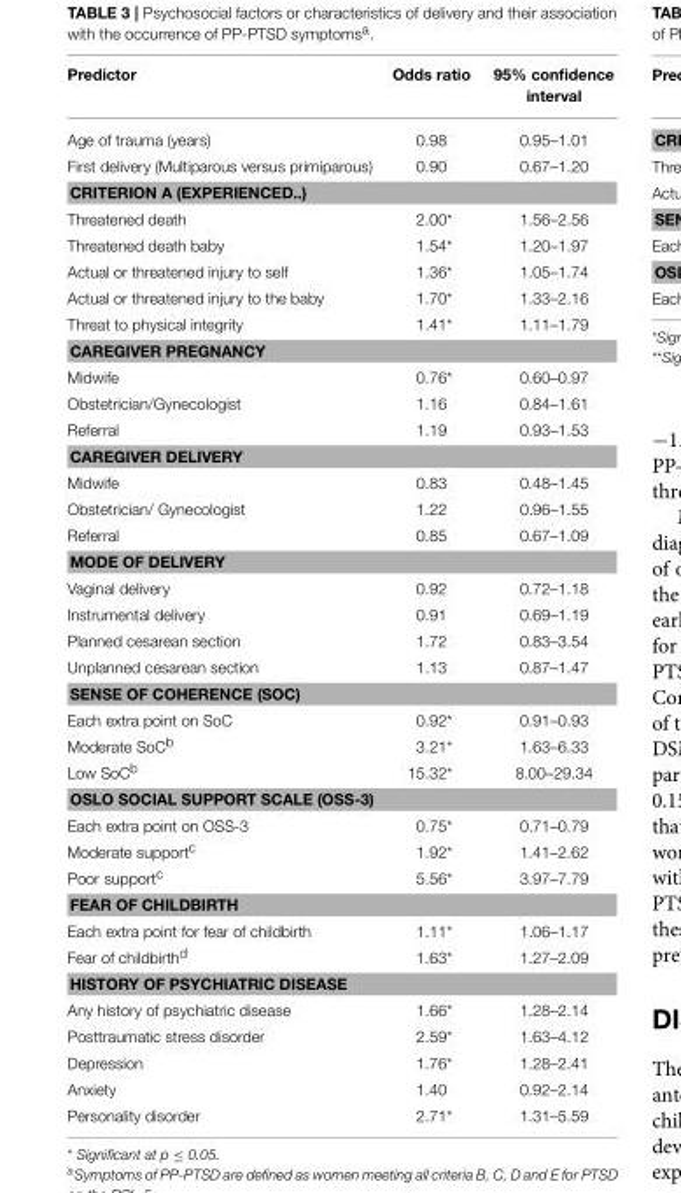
<table><thead><tr><td>Predictor</td><td>Odds ratio</td><td>95% confidence interval</td></tr></thead><tbody><tr><td>Age of trauma (years)</td><td>0.98</td><td>0.95–1.01</td></tr><tr><td>First delivery (Multiparous versus primiparous)</td><td>0.90</td><td>0.67–1.20</td></tr><tr><td colspan="3">CRITERION A (EXPERIENCED..)</td></tr><tr><td>Threatened death</td><td>2.00*</td><td>1.56–2.56</td></tr><tr><td>Threatened death baby</td><td>1.54*</td><td>1.20–1.97</td></tr><tr><td>Actual or threatened injury to self</td><td>1.36*</td><td>1.05–1.74</td></tr><tr><td>Actual or threatened injury to the baby</td><td>1.70*</td><td>1.33–2.16</td></tr><tr><td>Threat to physical integrity</td><td>1.41*</td><td>1.11–1.79</td></tr><tr><td colspan="3">CAREGIVER PREGNANCY</td></tr><tr><td>Midwife</td><td>0.76*</td><td>0.60–0.97</td></tr><tr><td>Obstetrician/Gynecologist</td><td>1.16</td><td>0.84–1.61</td></tr><tr><td>Referral</td><td>1.19</td><td>0.93–1.53</td></tr><tr><td colspan="3">CAREGIVER DELIVERY</td></tr><tr><td>Midwife</td><td>0.83</td><td>0.48–1.45</td></tr><tr><td>Obstetrician/ Gynecologist</td><td>1.22</td><td>0.96–1.55</td></tr><tr><td>Referral</td><td>0.85</td><td>0.67–1.09</td></tr><tr><td colspan="3">MODE OF DELIVERY</td></tr><tr><td>Vaginal delivery</td><td>0.92</td><td>0.72–1.18</td></tr><tr><td>Instrumental delivery</td><td>0.91</td><td>0.69–1.19</td></tr><tr><td>Planned cesarean section</td><td>1.72</td><td>0.83–3.54</td></tr><tr><td>Unplanned cesarean section</td><td>1.13</td><td>0.87–1.47</td></tr><tr><td colspan="3">SENSE OF COHERENCE (SOC)</td></tr><tr><td>Each extra point on SoC</td><td>0.92*</td><td>0.91–0.93</td></tr><tr><td>Moderate SoC<sup>b</sup></td><td>3.21*</td><td>1.63–6.33</td></tr><tr><td>Low SoC<sup>b</sup></td><td>15.32*</td><td>8.00–29.34</td></tr><tr><td colspan="3">OSLO SOCIAL SUPPORT SCALE (OSS-3)</td></tr><tr><td>Each extra point on OSS-3</td><td>0.75*</td><td>0.71–0.79</td></tr><tr><td>Moderate support<sup>c</sup></td><td>1.92*</td><td>1.41–2.62</td></tr><tr><td>Poor support<sup>c</sup></td><td>5.56*</td><td>3.97–7.79</td></tr><tr><td colspan="3">FEAR OF CHILDBIRTH</td></tr><tr><td>Each extra point for fear of childbirth</td><td>1.11*</td><td>1.06–1.17</td></tr><tr><td>Fear of childbirth<sup>d</sup></td><td>1.63*</td><td>1.27–2.09</td></tr><tr><td colspan="3">HISTORY OF PSYCHIATRIC DISEASE</td></tr><tr><td>Any history of psychiatric disease</td><td>1.66*</td><td>1.28–2.14</td></tr><tr><td>Posttraumatic stress disorder</td><td>2.59*</td><td>1.63–4.12</td></tr><tr><td>Depression</td><td>1.76*</td><td>1.28–2.41</td></tr><tr><td>Anxiety</td><td>1.40</td><td>0.92–2.14</td></tr><tr><td>Personality disorder</td><td>2.71*</td><td>1.31–5.59</td></tr></tbody></table>